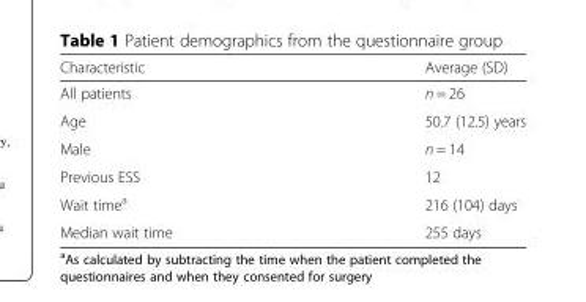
<table><thead><tr><td>Characteristic</td><td>Average (SD)</td></tr></thead><tbody><tr><td>All patients</td><td>n = 26</td></tr><tr><td>Age</td><td>50.7 (12.5) years</td></tr><tr><td>Male</td><td>n = 14</td></tr><tr><td>Previous ESS</td><td>12</td></tr><tr><td>Wait time<sup>a</sup></td><td>216 (104) days</td></tr><tr><td>Median wait time</td><td>255 days</td></tr></tbody></table>